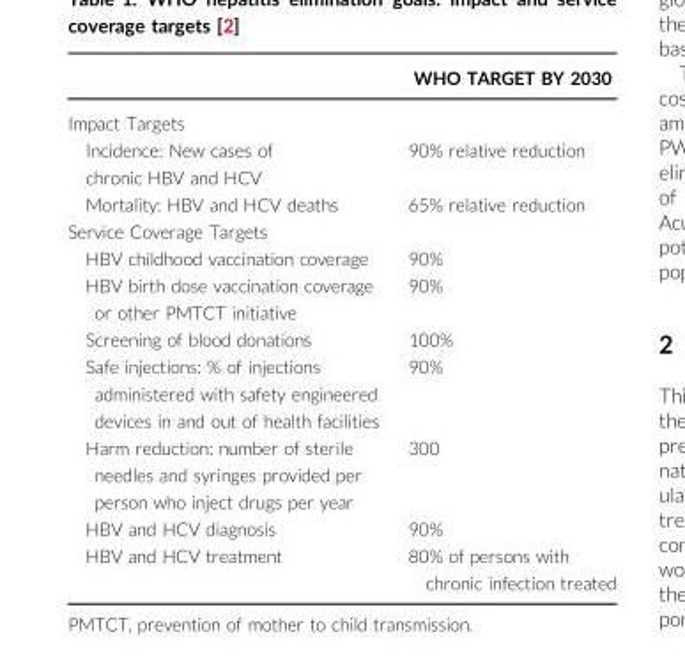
<table><thead><tr><td></td><td>WHO TARGET BY 2030</td></tr></thead><tbody><tr><td colspan="2">Impact Targets</td></tr><tr><td>Incidence: New cases of chronic HBV and HCV</td><td>90% relative reduction</td></tr><tr><td>Mortality: HBV and HCV deaths</td><td>65% relative reduction</td></tr><tr><td colspan="2">Service Coverage Targets</td></tr><tr><td>HBV childhood vaccination coverage</td><td>90%</td></tr><tr><td>HBV birth dose vaccination coverage or other PMTCT initiative</td><td>90%</td></tr><tr><td>Screening of blood donations</td><td>100%</td></tr><tr><td>Safe injections: % of injections administered with safety engineered devices in and out of health facilities</td><td>90%</td></tr><tr><td>Harm reduction: number of sterile needles and syringes provided per person who inject drugs per year</td><td>300</td></tr><tr><td>HBV and HCV diagnosis</td><td>90%</td></tr><tr><td>HBV and HCV treatment</td><td>80% of persons with chronic infection treated</td></tr></tbody></table>